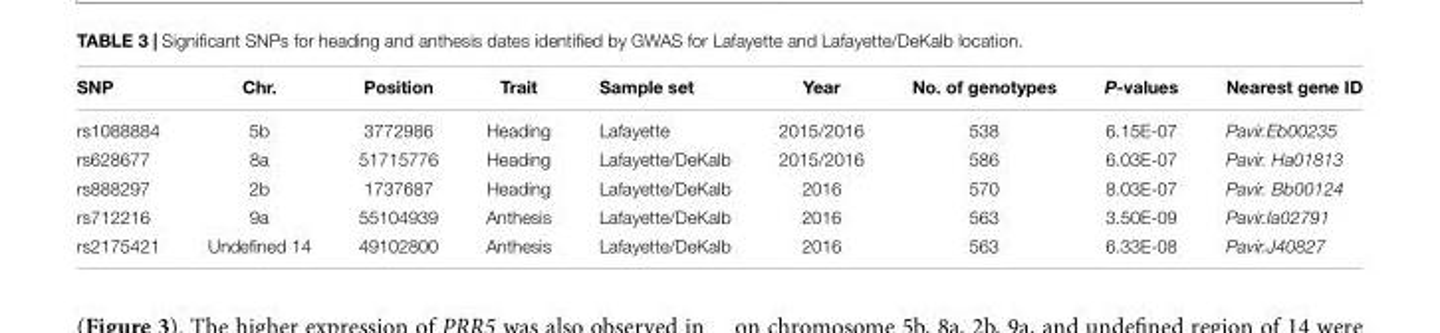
<table><thead><tr><td>SNP</td><td>Chr.</td><td>Position</td><td>Trait</td><td>Sample set</td><td>Year</td><td>No. of genotypes</td><td>P-values</td><td>Nearest gene ID</td></tr></thead><tbody><tr><td>rs1088884</td><td>5b</td><td>3772986</td><td>Heading</td><td>Lafayette</td><td>2015/2016</td><td>538</td><td>6.15E-07</td><td>Pavir.Eb00235</td></tr><tr><td>rs628677</td><td>8a</td><td>51715776</td><td>Heading</td><td>Lafayette/DeKalb</td><td>2015/2016</td><td>586</td><td>6.03E-07</td><td>Pavir. Ha01813</td></tr><tr><td>rs888297</td><td>2b</td><td>1737687</td><td>Heading</td><td>Lafayette/DeKalb</td><td>2016</td><td>570</td><td>8.03E-07</td><td>Pavir. Bb00124</td></tr><tr><td>rs712216</td><td>9a</td><td>55104939</td><td>Anthesis</td><td>Lafayette/DeKalb</td><td>2016</td><td>563</td><td>3.50E-09</td><td>Pavir.Ia02791</td></tr><tr><td>rs2175421</td><td>Undefined 14</td><td>49102800</td><td>Anthesis</td><td>Lafayette/DeKalb</td><td>2016</td><td>563</td><td>6.33E-08</td><td>Pavir.J40827</td></tr></tbody></table>